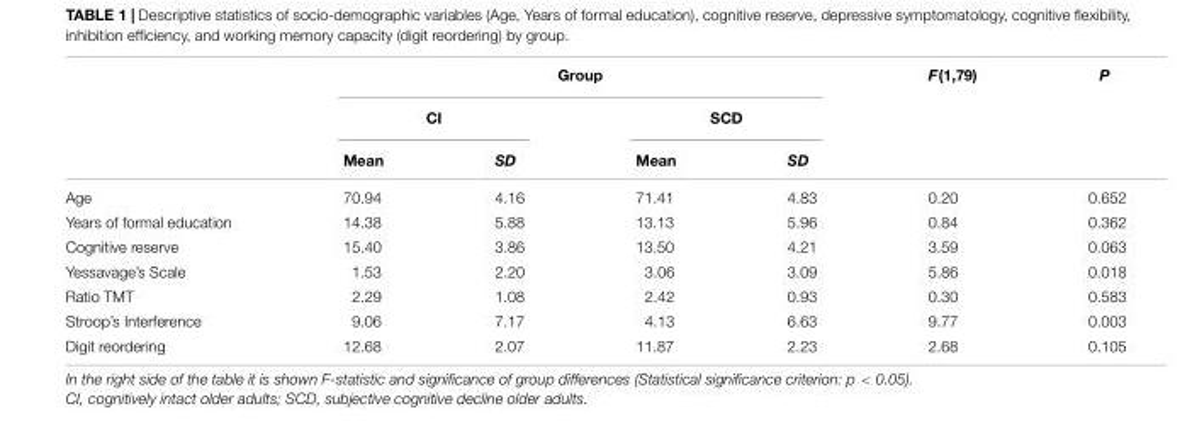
<table><thead><tr><td rowspan="3"></td><td colspan="4">Group</td><td rowspan="3">F(1,79)</td><td rowspan="3">P</td></tr><tr><td colspan="2">CI</td><td colspan="2">SCD</td></tr><tr><td>Mean</td><td>SD</td><td>Mean</td><td>SD</td></tr></thead><tbody><tr><td>Age</td><td>70.94</td><td>4.16</td><td>71.41</td><td>4.83</td><td>0.20</td><td>0.652</td></tr><tr><td>Years of formal education</td><td>14.38</td><td>5.88</td><td>13.13</td><td>5.96</td><td>0.84</td><td>0.362</td></tr><tr><td>Cognitive reserve</td><td>15.40</td><td>3.86</td><td>13.50</td><td>4.21</td><td>3.59</td><td>0.063</td></tr><tr><td>Yessavage’s Scale</td><td>1.53</td><td>2.20</td><td>3.06</td><td>3.09</td><td>5.86</td><td>0.018</td></tr><tr><td>Ratio TMT</td><td>2.29</td><td>1.08</td><td>2.42</td><td>0.93</td><td>0.30</td><td>0.583</td></tr><tr><td>Stroop’s Interference</td><td>9.06</td><td>7.17</td><td>4.13</td><td>6.63</td><td>9.77</td><td>0.003</td></tr><tr><td>Digit reordering</td><td>12.68</td><td>2.07</td><td>11.87</td><td>2.23</td><td>2.68</td><td>0.105</td></tr></tbody></table>